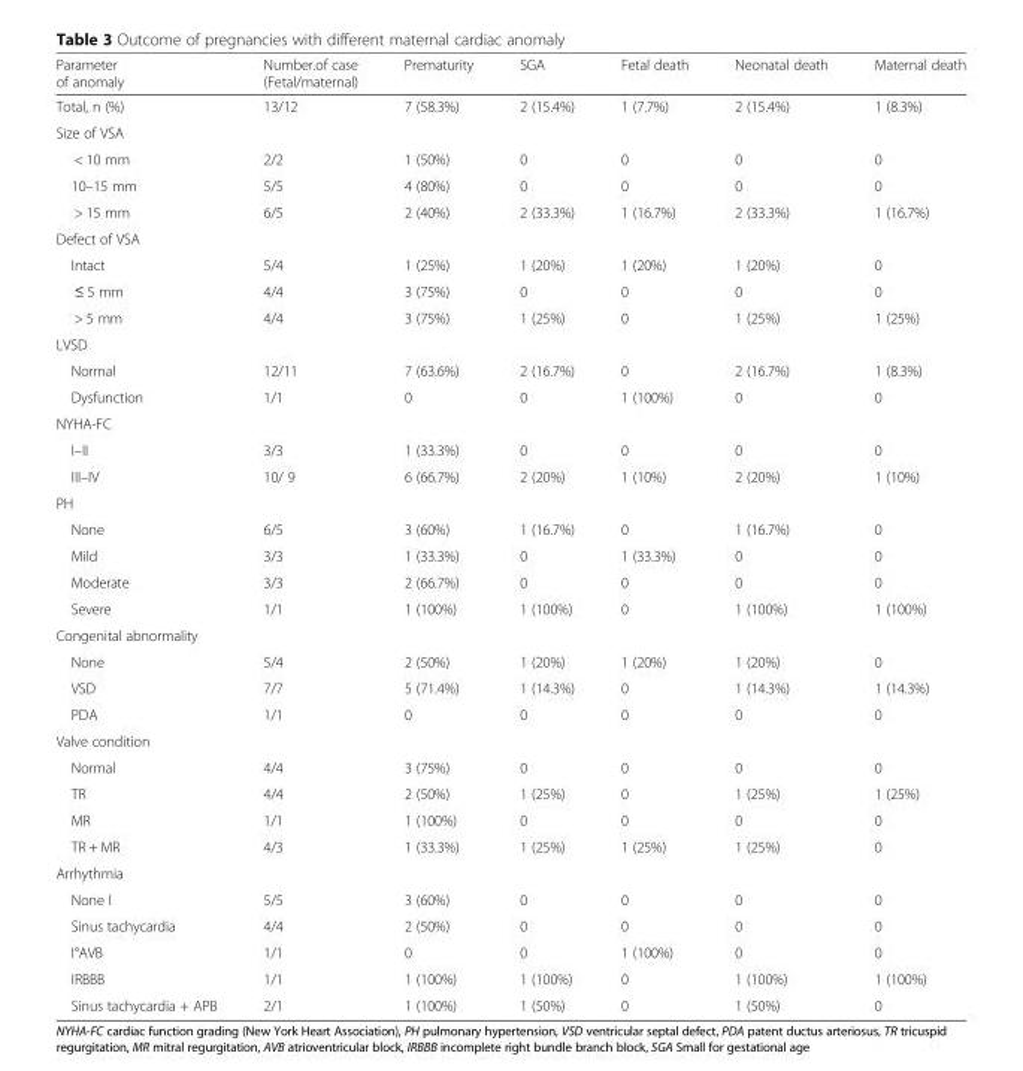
<table><thead><tr><td>Parameter of anomaly</td><td>Number.of case (Fetal/maternal)</td><td>Prematurity</td><td>SGA</td><td>Fetal death</td><td>Neonatal death</td><td>Maternal death</td></tr></thead><tbody><tr><td>Total, n (%)</td><td>13/12</td><td>7 (58.3%)</td><td>2 (15.4%)</td><td>1 (7.7%)</td><td>2 (15.4%)</td><td>1 (8.3%)</td></tr><tr><td colspan="7">Size of VSA</td></tr><tr><td>&lt; 10 mm</td><td>2/2</td><td>1 (50%)</td><td>0</td><td>0</td><td>0</td><td>0</td></tr><tr><td>10–15 mm</td><td>5/5</td><td>4 (80%)</td><td>0</td><td>0</td><td>0</td><td>0</td></tr><tr><td>&gt; 15 mm</td><td>6/5</td><td>2 (40%)</td><td>2 (33.3%)</td><td>1 (16.7%)</td><td>2 (33.3%)</td><td>1 (16.7%)</td></tr><tr><td colspan="7">Defect of VSA</td></tr><tr><td>Intact</td><td>5/4</td><td>1 (25%)</td><td>1 (20%)</td><td>1 (20%)</td><td>1 (20%)</td><td>0</td></tr><tr><td>≤ 5 mm</td><td>4/4</td><td>3 (75%)</td><td>0</td><td>0</td><td>0</td><td>0</td></tr><tr><td>&gt; 5 mm</td><td>4/4</td><td>3 (75%)</td><td>1 (25%)</td><td>0</td><td>1 (25%)</td><td>1 (25%)</td></tr><tr><td colspan="7">LVSD</td></tr><tr><td>Normal</td><td>12/11</td><td>7 (63.6%)</td><td>2 (16.7%)</td><td>0</td><td>2 (16.7%)</td><td>1 (8.3%)</td></tr><tr><td>Dysfunction</td><td>1/1</td><td>0</td><td>0</td><td>1 (100%)</td><td>0</td><td>0</td></tr><tr><td colspan="7">NYHA-FC</td></tr><tr><td>I–II</td><td>3/3</td><td>1 (33.3%)</td><td>0</td><td>0</td><td>0</td><td>0</td></tr><tr><td>III–IV</td><td>10/ 9</td><td>6 (66.7%)</td><td>2 (20%)</td><td>1 (10%)</td><td>2 (20%)</td><td>1 (10%)</td></tr><tr><td colspan="7">PH</td></tr><tr><td>None</td><td>6/5</td><td>3 (60%)</td><td>1 (16.7%)</td><td>0</td><td>1 (16.7%)</td><td>0</td></tr><tr><td>Mild</td><td>3/3</td><td>1 (33.3%)</td><td>0</td><td>1 (33.3%)</td><td>0</td><td>0</td></tr><tr><td>Moderate</td><td>3/3</td><td>2 (66.7%)</td><td>0</td><td>0</td><td>0</td><td>0</td></tr><tr><td>Severe</td><td>1/1</td><td>1 (100%)</td><td>1 (100%)</td><td>0</td><td>1 (100%)</td><td>1 (100%)</td></tr><tr><td colspan="7">Congenital abnormality</td></tr><tr><td>None</td><td>5/4</td><td>2 (50%)</td><td>1 (20%)</td><td>1 (20%)</td><td>1 (20%)</td><td>0</td></tr><tr><td>VSD</td><td>7/7</td><td>5 (71.4%)</td><td>1 (14.3%)</td><td>0</td><td>1 (14.3%)</td><td>1 (14.3%)</td></tr><tr><td>PDA</td><td>1/1</td><td>0</td><td>0</td><td>0</td><td>0</td><td>0</td></tr><tr><td colspan="7">Valve condition</td></tr><tr><td>Normal</td><td>4/4</td><td>3 (75%)</td><td>0</td><td>0</td><td>0</td><td>0</td></tr><tr><td>TR</td><td>4/4</td><td>2 (50%)</td><td>1 (25%)</td><td>0</td><td>1 (25%)</td><td>1 (25%)</td></tr><tr><td>MR</td><td>1/1</td><td>1 (100%)</td><td>0</td><td>0</td><td>0</td><td>0</td></tr><tr><td>TR + MR</td><td>4/3</td><td>1 (33.3%)</td><td>1 (25%)</td><td>1 (25%)</td><td>1 (25%)</td><td>0</td></tr><tr><td colspan="7">Arrhythmia</td></tr><tr><td>None l</td><td>5/5</td><td>3 (60%)</td><td>0</td><td>0</td><td>0</td><td>0</td></tr><tr><td>Sinus tachycardia</td><td>4/4</td><td>2 (50%)</td><td>0</td><td>0</td><td>0</td><td>0</td></tr><tr><td>I°AVB</td><td>1/1</td><td>0</td><td>0</td><td>1 (100%)</td><td>0</td><td>0</td></tr><tr><td>IRBBB</td><td>1/1</td><td>1 (100%)</td><td>1 (100%)</td><td>0</td><td>1 (100%)</td><td>1 (100%)</td></tr><tr><td>Sinus tachycardia + APB</td><td>2/1</td><td>1 (100%)</td><td>1 (50%)</td><td>0</td><td>1 (50%)</td><td>0</td></tr></tbody></table>